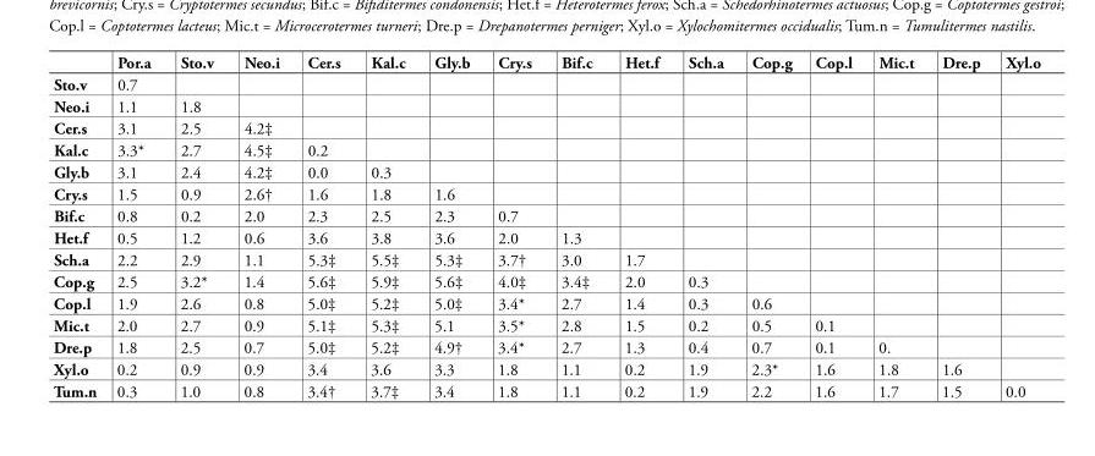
<table><thead><tr><td></td><td>Por.a</td><td>Sto.v</td><td>Neo.i</td><td>Cer.s</td><td>Kal.c</td><td>Gly.b</td><td>Cry.s</td><td>Bif.c</td><td>Het.f</td><td>Sch.a</td><td>Cop.g</td><td>Cop.l</td><td>Mic.t</td><td>Dre.p</td><td>Xyl.o</td></tr></thead><tbody><tr><td>Sto.v</td><td>0.7</td><td></td><td></td><td></td><td></td><td></td><td></td><td></td><td></td><td></td><td></td><td></td><td></td><td></td><td></td></tr><tr><td>Neo.i</td><td>1.1</td><td>1.8</td><td></td><td></td><td></td><td></td><td></td><td></td><td></td><td></td><td></td><td></td><td></td><td></td><td></td></tr><tr><td>Cer.s</td><td>3.1</td><td>2.5</td><td>4.2‡</td><td></td><td></td><td></td><td></td><td></td><td></td><td></td><td></td><td></td><td></td><td></td><td></td></tr><tr><td>Kal.c</td><td>3.3*</td><td>2.7</td><td>4.5‡</td><td>0.2</td><td></td><td></td><td></td><td></td><td></td><td></td><td></td><td></td><td></td><td></td><td></td></tr><tr><td>Gly.b</td><td>3.1</td><td>2.4</td><td>4.2‡</td><td>0.0</td><td>0.3</td><td></td><td></td><td></td><td></td><td></td><td></td><td></td><td></td><td></td><td></td></tr><tr><td>Cry.s</td><td>1.5</td><td>0.9</td><td>2.6†</td><td>1.6</td><td>1.8</td><td>1.6</td><td></td><td></td><td></td><td></td><td></td><td></td><td></td><td></td><td></td></tr><tr><td>Bif.c</td><td>0.8</td><td>0.2</td><td>2.0</td><td>2.3</td><td>2.5</td><td>2.3</td><td>0.7</td><td></td><td></td><td></td><td></td><td></td><td></td><td></td><td></td></tr><tr><td>Het.f</td><td>0.5</td><td>1.2</td><td>0.6</td><td>3.6</td><td>3.8</td><td>3.6</td><td>2.0</td><td>1.3</td><td></td><td></td><td></td><td></td><td></td><td></td><td></td></tr><tr><td>Sch.a</td><td>2.2</td><td>2.9</td><td>1.1</td><td>5.3‡</td><td>5.5‡</td><td>5.3‡</td><td>3.7†</td><td>3.0</td><td>1.7</td><td></td><td></td><td></td><td></td><td></td><td></td></tr><tr><td>Cop.g</td><td>2.5</td><td>3.2*</td><td>1.4</td><td>5.6‡</td><td>5.9‡</td><td>5.6‡</td><td>4.0‡</td><td>3.4‡</td><td>2.0</td><td>0.3</td><td></td><td></td><td></td><td></td><td></td></tr><tr><td>Cop.l</td><td>1.9</td><td>2.6</td><td>0.8</td><td>5.0‡</td><td>5.2‡</td><td>5.0‡</td><td>3.4*</td><td>2.7</td><td>1.4</td><td>0.3</td><td>0.6</td><td></td><td></td><td></td><td></td></tr><tr><td>Mic.t</td><td>2.0</td><td>2.7</td><td>0.9</td><td>5.1‡</td><td>5.3‡</td><td>5.1</td><td>3.5*</td><td>2.8</td><td>1.5</td><td>0.2</td><td>0.5</td><td>0.1</td><td></td><td></td><td></td></tr><tr><td>Dre.p</td><td>1.8</td><td>2.5</td><td>0.7</td><td>5.0‡</td><td>5.2‡</td><td>4.9†</td><td>3.4*</td><td>2.7</td><td>1.3</td><td>0.4</td><td>0.7</td><td>0.1</td><td>0.</td><td></td><td></td></tr><tr><td>Xyl.o</td><td>0.2</td><td>0.9</td><td>0.9</td><td>3.4</td><td>3.6</td><td>3.3</td><td>1.8</td><td>1.1</td><td>0.2</td><td>1.9</td><td>2.3*</td><td>1.6</td><td>1.8</td><td>1.6</td><td></td></tr><tr><td>Tum.n</td><td>0.3</td><td>1.0</td><td>0.8</td><td>3.4†</td><td>3.7‡</td><td>3.4</td><td>1.8</td><td>1.1</td><td>0.2</td><td>1.9</td><td>2.2</td><td>1.6</td><td>1.7</td><td>1.5</td><td>0.0</td></tr></tbody></table>